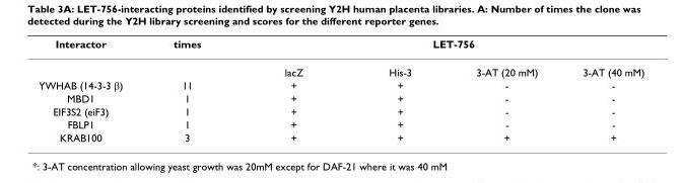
<table><thead><tr><td rowspan="2">Interactor</td><td rowspan="2">times</td><td colspan="4">LET-756</td></tr><tr><td>lacZ</td><td>His-3</td><td>3-AT (20 mM)</td><td>3-AT (40 mM)</td></tr></thead><tbody><tr><td>YWHAB (14-3-3 β)</td><td>11</td><td>+</td><td>+</td><td>-</td><td>-</td></tr><tr><td>MBD1</td><td>1</td><td>+</td><td>+</td><td>-</td><td>-</td></tr><tr><td>EIF3S2 (eiF3)</td><td>1</td><td>+</td><td>+</td><td>-</td><td>-</td></tr><tr><td>FBLP1</td><td>1</td><td>+</td><td>+</td><td>-</td><td>-</td></tr><tr><td>KRAB100</td><td>3</td><td>+</td><td>+</td><td>+</td><td>+</td></tr></tbody></table>